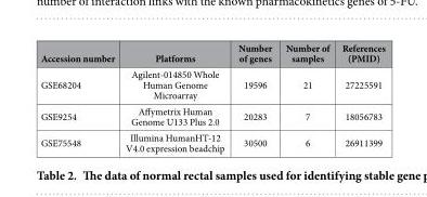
<table><thead><tr><td>Accession number</td><td>Platforms</td><td>Number of genes</td><td>Number of samples</td><td>References (PMID)</td></tr></thead><tbody><tr><td>GSE68204</td><td>Agilent-014850 Whole Human Genome Microarray</td><td>19596</td><td>21</td><td>27225591</td></tr><tr><td>GSE9254</td><td>Affymetrix Human Genome U133 Plus 2.0</td><td>20283</td><td>7</td><td>18056783</td></tr><tr><td>GSE75548</td><td>Illumina HumanHT-12 V4.0 expression beadchip</td><td>30500</td><td>6</td><td>26911399</td></tr></tbody></table>